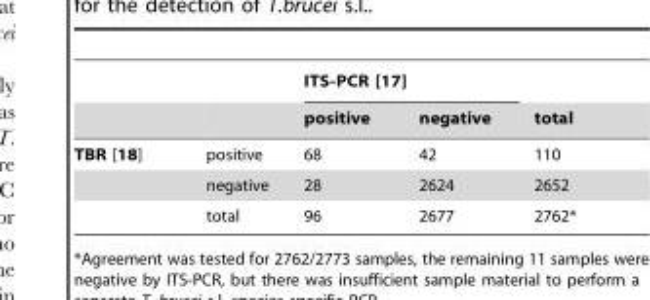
<table><thead><tr><td rowspan="2"></td><td rowspan="2"></td><td colspan="2">ITS-PCR [17]</td><td rowspan="2">total</td></tr><tr><td>positive</td><td>negative</td></tr></thead><tbody><tr><td rowspan="3">TBR [18]</td><td>positive</td><td>68</td><td>42</td><td>110</td></tr><tr><td>negative</td><td>28</td><td>2624</td><td>2652</td></tr><tr><td>total</td><td>96</td><td>2677</td><td>2762*</td></tr></tbody></table>